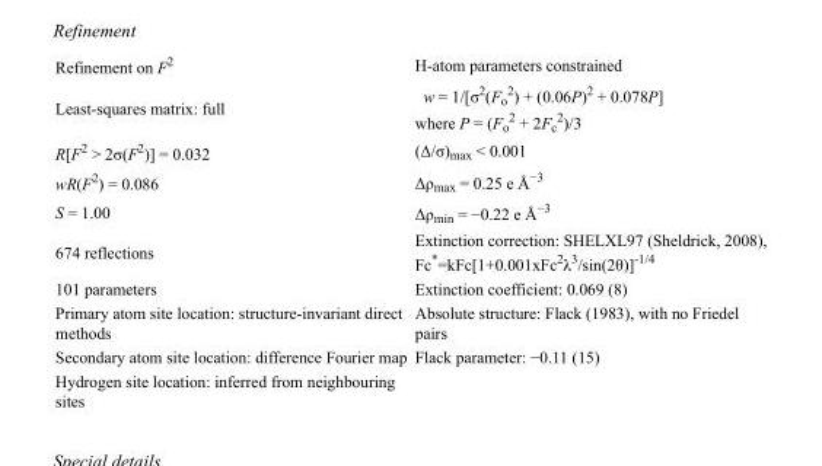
<table><tbody><tr><td>Refinement on F<sup>2</sup></td><td>H-atom parameters constrained</td></tr><tr><td>Least-squares matrix: full</td><td>w = 1/[σ<sup>2</sup>(F<sub>o</sub> <sup>2</sup>) + (0.06P)<sup>2</sup> + 0.078P] where P = (F<sub>o</sub> <sup>2</sup> + 2F<sub>c</sub> <sup>2</sup>)/3</td></tr><tr><td>R[F<sup>2</sup> &gt; 2σ(F<sup>2</sup>)] = 0.032</td><td>(Δ/σ)<sub>max</sub> &lt; 0.001</td></tr><tr><td>wR(F<sup>2</sup>) = 0.086</td><td>Δρ<sub>max</sub> = 0.25 e Å<sup>−3</sup></td></tr><tr><td>S = 1.00</td><td>Δρ<sub>min</sub> = −0.22 e Å<sup>−3</sup></td></tr><tr><td>674 reflections</td><td>Extinction correction: SHELXL97 (Sheldrick, 2008), Fc*=kFc[1+0.001xFc<sup>2</sup>λ<sup>3</sup>/sin(2θ)]<sup>-1/4</sup></td></tr><tr><td>101 parameters</td><td>Extinction coefficient: 0.069 (8)</td></tr><tr><td>Primary atom site location: structure-invariant direct methods</td><td>Absolute structure: Flack (1983), with no Friedel pairs</td></tr><tr><td>Secondary atom site location: difference Fourier map</td><td>Flack parameter: −0.11 (15)</td></tr><tr><td>Hydrogen site location: inferred from neighbouring sites</td><td></td></tr></tbody></table>